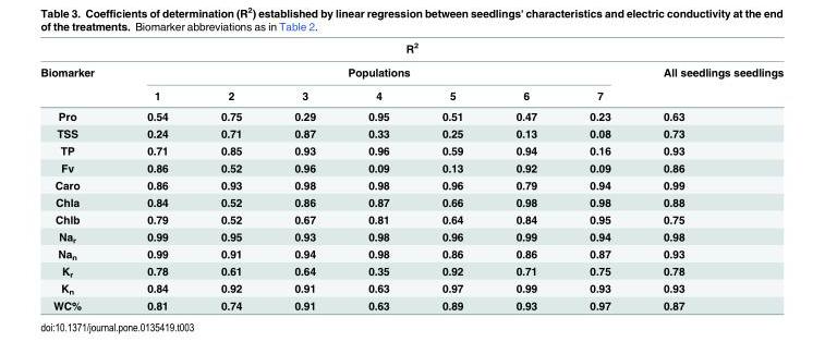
<table><thead><tr><td colspan="9">R<sup>2</sup></td></tr><tr><td rowspan="2">Biomarker</td><td colspan="7">Populations</td><td rowspan="2">All seedlings seedlings</td></tr><tr><td>1</td><td>2</td><td>3</td><td>4</td><td>5</td><td>6</td><td>7</td></tr></thead><tbody><tr><td>Pro</td><td>0.54</td><td>0.75</td><td>0.29</td><td>0.95</td><td>0.51</td><td>0.47</td><td>0.23</td><td>0.63</td></tr><tr><td>TSS</td><td>0.24</td><td>0.71</td><td>0.87</td><td>0.33</td><td>0.25</td><td>0.13</td><td>0.08</td><td>0.73</td></tr><tr><td>TP</td><td>0.71</td><td>0.85</td><td>0.93</td><td>0.96</td><td>0.59</td><td>0.94</td><td>0.16</td><td>0.93</td></tr><tr><td>Fv</td><td>0.86</td><td>0.52</td><td>0.96</td><td>0.09</td><td>0.13</td><td>0.92</td><td>0.09</td><td>0.86</td></tr><tr><td>Caro</td><td>0.86</td><td>0.93</td><td>0.98</td><td>0.98</td><td>0.96</td><td>0.79</td><td>0.94</td><td>0.99</td></tr><tr><td>Chla</td><td>0.84</td><td>0.52</td><td>0.86</td><td>0.87</td><td>0.66</td><td>0.98</td><td>0.98</td><td>0.88</td></tr><tr><td>Chlb</td><td>0.79</td><td>0.52</td><td>0.67</td><td>0.81</td><td>0.64</td><td>0.84</td><td>0.95</td><td>0.75</td></tr><tr><td>Na<sub>r</sub></td><td>0.99</td><td>0.95</td><td>0.93</td><td>0.98</td><td>0.96</td><td>0.99</td><td>0.94</td><td>0.98</td></tr><tr><td>Na<sub>n</sub></td><td>0.99</td><td>0.91</td><td>0.94</td><td>0.98</td><td>0.86</td><td>0.86</td><td>0.87</td><td>0.93</td></tr><tr><td>K<sub>r</sub></td><td>0.78</td><td>0.61</td><td>0.64</td><td>0.35</td><td>0.92</td><td>0.71</td><td>0.75</td><td>0.78</td></tr><tr><td>K<sub>n</sub></td><td>0.84</td><td>0.92</td><td>0.91</td><td>0.63</td><td>0.97</td><td>0.99</td><td>0.93</td><td>0.93</td></tr><tr><td>WC%</td><td>0.81</td><td>0.74</td><td>0.91</td><td>0.63</td><td>0.89</td><td>0.93</td><td>0.97</td><td>0.87</td></tr></tbody></table>